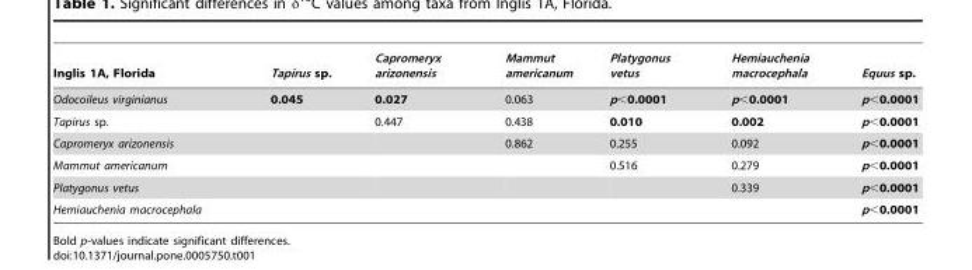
<table><thead><tr><td>Inglis 1A, Florida</td><td>Tapirus sp.</td><td>Capromeryx arizonensis</td><td>Mammut americanum</td><td>Platygonus vetus</td><td>Hemiauchenia macrocephala</td><td>Equus sp.</td></tr></thead><tbody><tr><td>Odocoileus virginianus</td><td>0.045</td><td>0.027</td><td>0.063</td><td>p&lt;0.0001</td><td>p&lt;0.0001</td><td>p&lt;0.0001</td></tr><tr><td>Tapirus sp.</td><td></td><td>0.447</td><td>0.438</td><td>0.010</td><td>0.002</td><td>p&lt;0.0001</td></tr><tr><td>Capromeryx arizonensis</td><td></td><td></td><td>0.862</td><td>0.255</td><td>0.092</td><td>p&lt;0.0001</td></tr><tr><td>Mammut americanum</td><td></td><td></td><td></td><td>0.516</td><td>0.279</td><td>p&lt;0.0001</td></tr><tr><td>Platygonus vetus</td><td></td><td></td><td></td><td></td><td>0.339</td><td>p&lt;0.0001</td></tr><tr><td>Hemiauchenia macrocephala</td><td></td><td></td><td></td><td></td><td></td><td>p&lt;0.0001</td></tr></tbody></table>